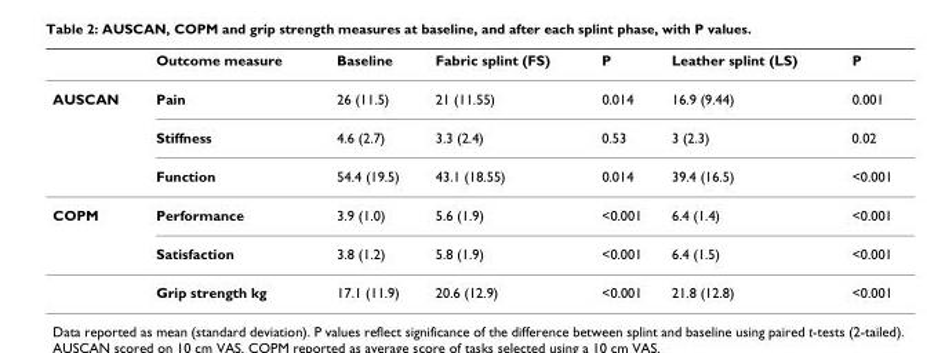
<table><thead><tr><td></td><td>Outcome measure</td><td>Baseline</td><td>Fabric splint (FS)</td><td>P</td><td>Leather splint (LS)</td><td>P</td></tr></thead><tbody><tr><td rowspan="3">AUSCAN</td><td>Pain</td><td>26 (11.5)</td><td>21 (11.55)</td><td>0.014</td><td>16.9 (9.44)</td><td>0.001</td></tr><tr><td>Stiffness</td><td>4.6 (2.7)</td><td>3.3 (2.4)</td><td>0.53</td><td>3 (2.3)</td><td>0.02</td></tr><tr><td>Function</td><td>54.4 (19.5)</td><td>43.1 (18.55)</td><td>0.014</td><td>39.4 (16.5)</td><td>&lt;0.001</td></tr><tr><td rowspan="3">COPM</td><td>Performance</td><td>3.9 (1.0)</td><td>5.6 (1.9)</td><td>&lt;0.001</td><td>6.4 (1.4)</td><td>&lt;0.001</td></tr><tr><td>Satisfaction</td><td>3.8 (1.2)</td><td>5.8 (1.9)</td><td>&lt;0.001</td><td>6.4 (1.5)</td><td>&lt;0.001</td></tr><tr><td>Grip strength kg</td><td>17.1 (11.9)</td><td>20.6 (12.9)</td><td>&lt;0.001</td><td>21.8 (12.8)</td><td>&lt;0.001</td></tr></tbody></table>